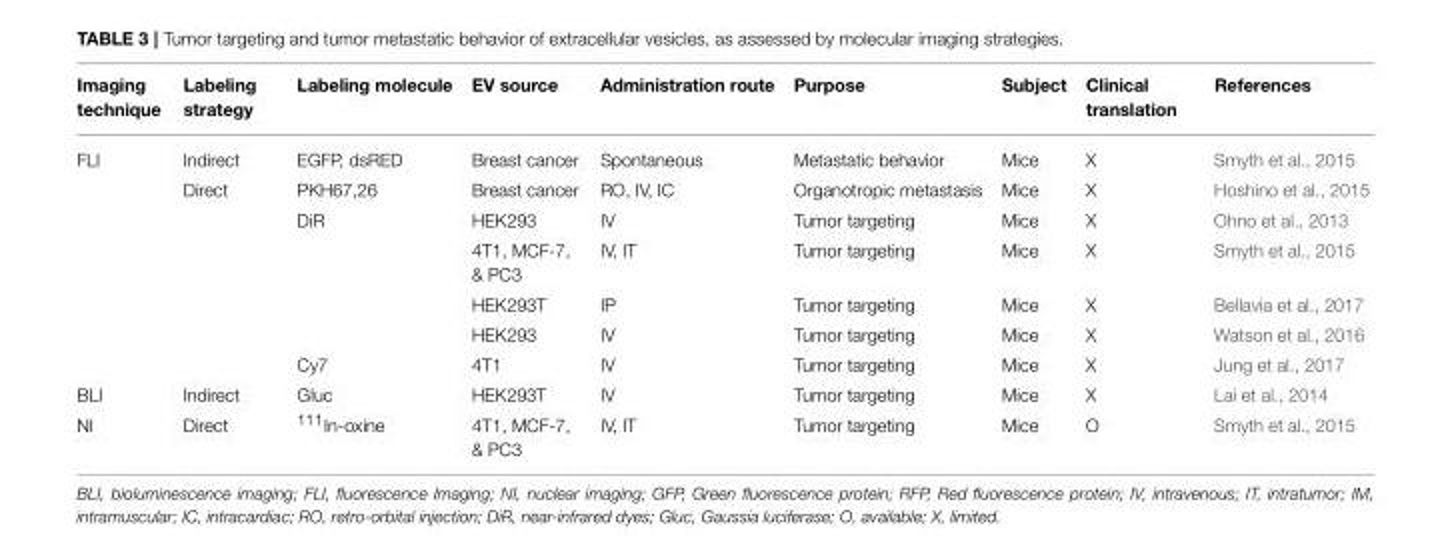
<table><thead><tr><td>Imaging technique</td><td>Labeling strategy</td><td>Labeling molecule</td><td>EV source</td><td>Administration route</td><td>Purpose</td><td>Subject</td><td>Clinical translation</td><td>References</td></tr></thead><tbody><tr><td rowspan="7">FLI</td><td>Indirect</td><td>EGFP, dsRED</td><td>Breast cancer</td><td>Spontaneous</td><td>Metastatic behavior</td><td>Mice</td><td>X</td><td>Smyth et al., 2015</td></tr><tr><td>Direct</td><td>PKH67,26</td><td>Breast cancer</td><td>RO, IV, IC</td><td>Organotropic metastasis</td><td>Mice</td><td>X</td><td>Hoshino et al., 2015</td></tr><tr><td></td><td>DiR</td><td>HEK293</td><td>IV</td><td>Tumor targeting</td><td>Mice</td><td>X</td><td>Ohno et al., 2013</td></tr><tr><td></td><td></td><td>4T1, MCF-7, &amp; PC3</td><td>IV, IT</td><td>Tumor targeting</td><td>Mice</td><td>X</td><td>Smyth et al., 2015</td></tr><tr><td></td><td></td><td>HEK293T</td><td>IP</td><td>Tumor targeting</td><td>Mice</td><td>X</td><td>Bellavia et al., 2017</td></tr><tr><td></td><td></td><td>HEK293</td><td>IV</td><td>Tumor targeting</td><td>Mice</td><td>X</td><td>Watson et al., 2016</td></tr><tr><td></td><td>Cy7</td><td>4T1</td><td>IV</td><td>Tumor targeting</td><td>Mice</td><td>X</td><td>Jung et al., 2017</td></tr><tr><td>BLI</td><td>Indirect</td><td>Gluc</td><td>HEK293T</td><td>IV</td><td>Tumor targeting</td><td>Mice</td><td>X</td><td>Lai et al., 2014</td></tr><tr><td>NI</td><td>Direct</td><td><sup>111</sup>In-oxine</td><td>4T1, MCF-7, &amp; PC3</td><td>IV, IT</td><td>Tumor targeting</td><td>Mice</td><td>O</td><td>Smyth et al., 2015</td></tr></tbody></table>